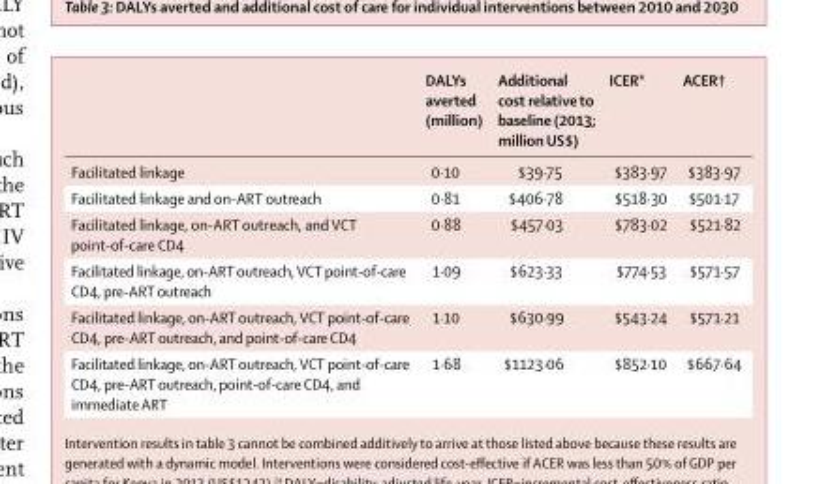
<table><thead><tr><td></td><td>DALYs averted (million)</td><td>Additional cost relative to baseline (2013; million US$)</td><td>ICER*</td><td>ACER†</td></tr></thead><tbody><tr><td>Facilitated linkage</td><td>0·10</td><td>$39·75</td><td>$383·97</td><td>$383·97</td></tr><tr><td>Facilitated linkage and on-ART outreach</td><td>0·81</td><td>$406·78</td><td>$518·30</td><td>$501·17</td></tr><tr><td>Facilitated linkage, on-ART outreach, and VCT point-of-care CD4</td><td>0·88</td><td>$457·03</td><td>$783·02</td><td>$521·82</td></tr><tr><td>Facilitated linkage, on-ART outreach, VCT point-of-care CD4, pre-ART outreach</td><td>1·09</td><td>$623·33</td><td>$774·53</td><td>$571·57</td></tr><tr><td>Facilitated linkage, on-ART outreach, VCT point-of-care CD4, pre-ART outreach, and point-of-care CD4</td><td>1·10</td><td>$630·99</td><td>$543·24</td><td>$571·21</td></tr><tr><td>Facilitated linkage, on-ART outreach, VCT point-of-care CD4, pre-ART outreach, point-of-care CD4, and immediate ART</td><td>1·68</td><td>$1123·06</td><td>$852·10</td><td>$667·64</td></tr></tbody></table>